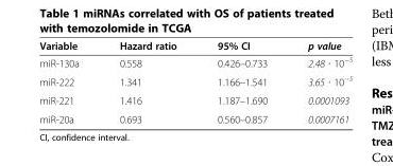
<table><thead><tr><td>Variable</td><td>Hazard ratio</td><td>95% CI</td><td>p value</td></tr></thead><tbody><tr><td>miR-130a</td><td>0.558</td><td>0.426–0.733</td><td>2.48 ∙ 10<sup>−5</sup></td></tr><tr><td>miR-222</td><td>1.341</td><td>1.166–1.541</td><td>3.65 ∙ 10<sup>−5</sup></td></tr><tr><td>miR-221</td><td>1.416</td><td>1.187–1.690</td><td>0.0001093</td></tr><tr><td>miR-20a</td><td>0.693</td><td>0.560–0.857</td><td>0.0007161</td></tr></tbody></table>